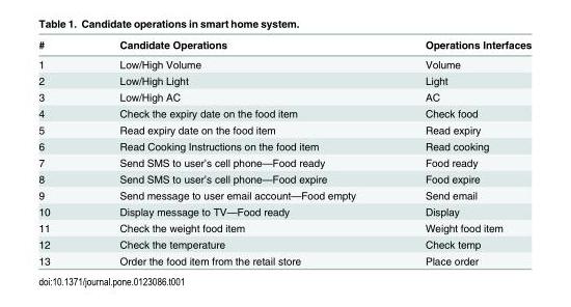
<table><thead><tr><td>#</td><td>Candidate Operations</td><td>Operations Interfaces</td></tr></thead><tbody><tr><td>1</td><td>Low/High Volume</td><td>Volume</td></tr><tr><td>2</td><td>Low/High Light</td><td>Light</td></tr><tr><td>3</td><td>Low/High AC</td><td>AC</td></tr><tr><td>4</td><td>Check the expiry date on the food item</td><td>Check food</td></tr><tr><td>5</td><td>Read expiry date on the food item</td><td>Read expiry</td></tr><tr><td>6</td><td>Read Cooking Instructions on the food item</td><td>Read cooking</td></tr><tr><td>7</td><td>Send SMS to user’s cell phone—Food ready</td><td>Food ready</td></tr><tr><td>8</td><td>Send SMS to user’s cell phone—Food expire</td><td>Food expire</td></tr><tr><td>9</td><td>Send message to user email account—Food empty</td><td>Send email</td></tr><tr><td>10</td><td>Display message to TV—Food ready</td><td>Display</td></tr><tr><td>11</td><td>Check the weight food item</td><td>Weight food item</td></tr><tr><td>12</td><td>Check the temperature</td><td>Check temp</td></tr><tr><td>13</td><td>Order the food item from the retail store</td><td>Place order</td></tr></tbody></table>